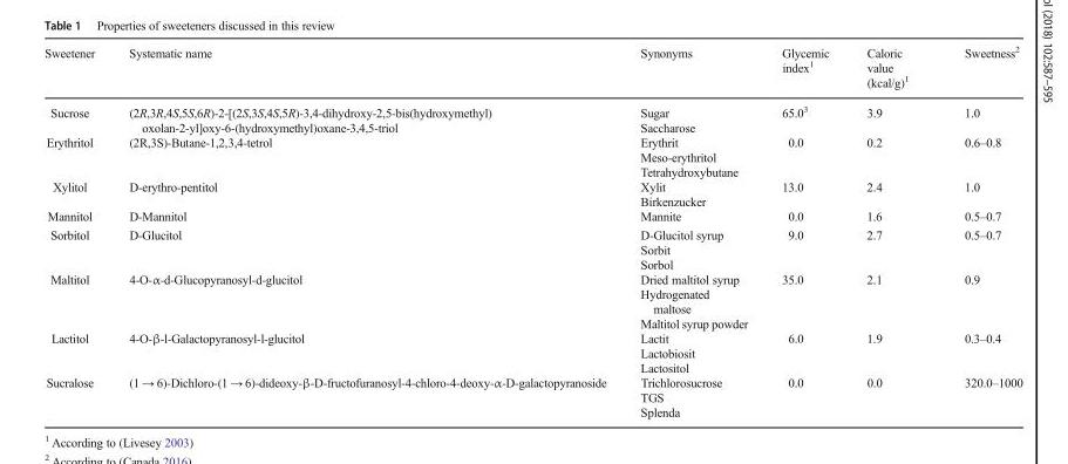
<table><thead><tr><td>Sweetener</td><td>Systematic name</td><td>Synonyms</td><td>Glycemic index<sup>1</sup></td><td>Caloric value (kcal/g)<sup>1</sup></td><td>Sweetness<sup>2</sup></td></tr></thead><tbody><tr><td>Sucrose</td><td>(2R,3R,4S,5S,6R)-2-[(2S,3S,4S,5R)-3,4-dihydroxy-2,5-bis(hydroxymethyl) oxolan-2-yl]oxy-6-(hydroxymethyl)oxane-3,4,5-triol</td><td>Sugar Saccharose</td><td>65.0<sup>3</sup></td><td>3.9</td><td>1.0</td></tr><tr><td>Erythritol</td><td>(2R,3S)-Butane-1,2,3,4-tetrol</td><td>Erythrit Meso-erythritol Tetrahydroxybutane</td><td>0.0</td><td>0.2</td><td>0.6–0.8</td></tr><tr><td>Xylitol</td><td>D-erythro-pentitol</td><td>Xylit Birkenzucker</td><td>13.0</td><td>2.4</td><td>1.0</td></tr><tr><td>Mannitol</td><td>D-Mannitol</td><td>Mannite</td><td>0.0</td><td>1.6</td><td>0.5–0.7</td></tr><tr><td>Sorbitol</td><td>D-Glucitol</td><td>D-Glucitol syrup Sorbit Sorbol</td><td>9.0</td><td>2.7</td><td>0.5–0.7</td></tr><tr><td>Maltitol</td><td>4-O-α-d-Glucopyranosyl-d-glucitol</td><td>Dried maltitol syrup Hydrogenated maltose Maltitol syrup powder</td><td>35.0</td><td>2.1</td><td>0.9</td></tr><tr><td>Lactitol</td><td>4-O-β-l-Galactopyranosyl-l-glucitol</td><td>Lactit Lactobiosit Lactositol</td><td>6.0</td><td>1.9</td><td>0.3–0.4</td></tr><tr><td>Sucralose</td><td>(1 → 6)-Dichloro-(1 → 6)-dideoxy-β-D-fructofuranosyl-4-chloro-4-deoxy-α-D-galactopyranoside</td><td>Trichlorosucrose TGS Splenda</td><td>0.0</td><td>0.0</td><td>320.0–1000</td></tr></tbody></table>